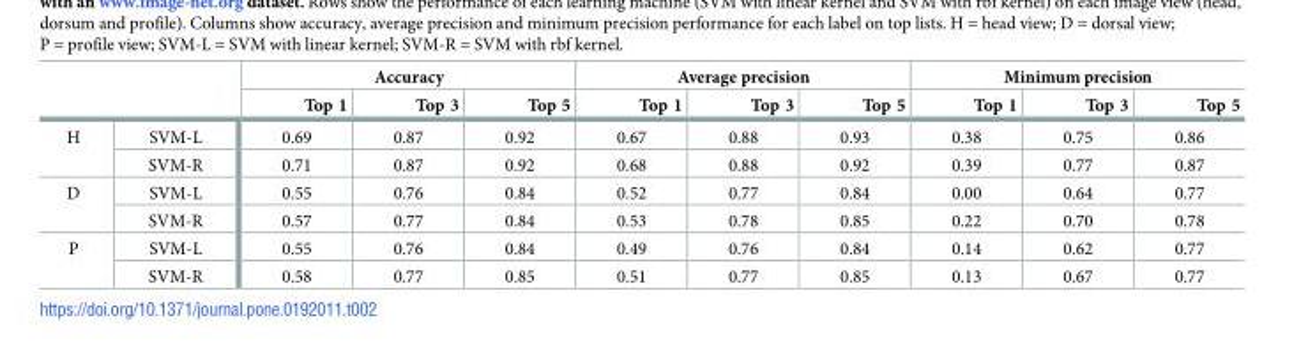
<table><thead><tr><td rowspan="2"></td><td rowspan="2"></td><td colspan="3">Accuracy</td><td colspan="3">Average precision</td><td colspan="3">Minimum precision</td></tr><tr><td>Top 1</td><td>Top 3</td><td>Top 5</td><td>Top 1</td><td>Top 3</td><td>Top 5</td><td>Top 1</td><td>Top 3</td><td>Top 5</td></tr></thead><tbody><tr><td rowspan="2">H</td><td>SVM-L</td><td>0.69</td><td>0.87</td><td>0.92</td><td>0.67</td><td>0.88</td><td>0.93</td><td>0.38</td><td>0.75</td><td>0.86</td></tr><tr><td>SVM-R</td><td>0.71</td><td>0.87</td><td>0.92</td><td>0.68</td><td>0.88</td><td>0.92</td><td>0.39</td><td>0.77</td><td>0.87</td></tr><tr><td rowspan="2">D</td><td>SVM-L</td><td>0.55</td><td>0.76</td><td>0.84</td><td>0.52</td><td>0.77</td><td>0.84</td><td>0.00</td><td>0.64</td><td>0.77</td></tr><tr><td>SVM-R</td><td>0.57</td><td>0.77</td><td>0.84</td><td>0.53</td><td>0.78</td><td>0.85</td><td>0.22</td><td>0.70</td><td>0.78</td></tr><tr><td rowspan="2">P</td><td>SVM-L</td><td>0.55</td><td>0.76</td><td>0.84</td><td>0.49</td><td>0.76</td><td>0.84</td><td>0.14</td><td>0.62</td><td>0.77</td></tr><tr><td>SVM-R</td><td>0.58</td><td>0.77</td><td>0.85</td><td>0.51</td><td>0.77</td><td>0.85</td><td>0.13</td><td>0.67</td><td>0.77</td></tr></tbody></table>